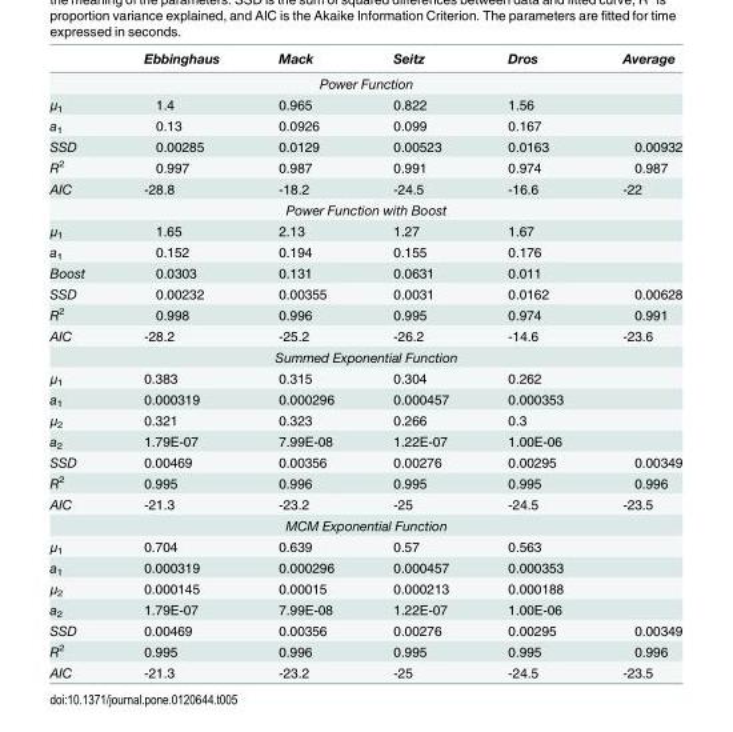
<table><thead><tr><td></td><td>Ebbinghaus</td><td>Mack</td><td>Seitz</td><td>Dros</td><td>Average</td></tr></thead><tbody><tr><td colspan="6">Power Function</td></tr><tr><td>μ<sub>1</sub></td><td>1.4</td><td>0.965</td><td>0.822</td><td>1.56</td><td></td></tr><tr><td>a<sub>1</sub></td><td>0.13</td><td>0.0926</td><td>0.099</td><td>0.167</td><td></td></tr><tr><td>SSD</td><td>0.00285</td><td>0.0129</td><td>0.00523</td><td>0.0163</td><td>0.00932</td></tr><tr><td>R<sup>2</sup></td><td>0.997</td><td>0.987</td><td>0.991</td><td>0.974</td><td>0.987</td></tr><tr><td>AIC</td><td>-28.8</td><td>-18.2</td><td>-24.5</td><td>-16.6</td><td>-22</td></tr><tr><td colspan="6">Power Function with Boost</td></tr><tr><td>μ<sub>1</sub></td><td>1.65</td><td>2.13</td><td>1.27</td><td>1.67</td><td></td></tr><tr><td>a<sub>1</sub></td><td>0.152</td><td>0.194</td><td>0.155</td><td>0.176</td><td></td></tr><tr><td>Boost</td><td>0.0303</td><td>0.131</td><td>0.0631</td><td>0.011</td><td></td></tr><tr><td>SSD</td><td>0.00232</td><td>0.00355</td><td>0.0031</td><td>0.0162</td><td>0.00628</td></tr><tr><td>R<sup>2</sup></td><td>0.998</td><td>0.996</td><td>0.995</td><td>0.974</td><td>0.991</td></tr><tr><td>AIC</td><td>-28.2</td><td>-25.2</td><td>-26.2</td><td>-14.6</td><td>-23.6</td></tr><tr><td colspan="6">Summed Exponential Function</td></tr><tr><td>μ<sub>1</sub></td><td>0.383</td><td>0.315</td><td>0.304</td><td>0.262</td><td></td></tr><tr><td>a<sub>1</sub></td><td>0.000319</td><td>0.000296</td><td>0.000457</td><td>0.000353</td><td></td></tr><tr><td>μ<sub>2</sub></td><td>0.321</td><td>0.323</td><td>0.266</td><td>0.3</td><td></td></tr><tr><td>a<sub>2</sub></td><td>1.79E-07</td><td>7.99E-08</td><td>1.22E-07</td><td>1.00E-06</td><td></td></tr><tr><td>SSD</td><td>0.00469</td><td>0.00356</td><td>0.00276</td><td>0.00295</td><td>0.00349</td></tr><tr><td>R<sup>2</sup></td><td>0.995</td><td>0.996</td><td>0.995</td><td>0.995</td><td>0.996</td></tr><tr><td>AIC</td><td>-21.3</td><td>-23.2</td><td>-25</td><td>-24.5</td><td>-23.5</td></tr><tr><td colspan="6">MCM Exponential Function</td></tr><tr><td>μ<sub>1</sub></td><td>0.704</td><td>0.639</td><td>0.57</td><td>0.563</td><td></td></tr><tr><td>a<sub>1</sub></td><td>0.000319</td><td>0.000296</td><td>0.000457</td><td>0.000353</td><td></td></tr><tr><td>μ<sub>2</sub></td><td>0.000145</td><td>0.00015</td><td>0.000213</td><td>0.000188</td><td></td></tr><tr><td>a<sub>2</sub></td><td>1.79E-07</td><td>7.99E-08</td><td>1.22E-07</td><td>1.00E-06</td><td></td></tr><tr><td>SSD</td><td>0.00469</td><td>0.00356</td><td>0.00276</td><td>0.00295</td><td>0.00349</td></tr><tr><td>R<sup>2</sup></td><td>0.995</td><td>0.996</td><td>0.995</td><td>0.995</td><td>0.996</td></tr><tr><td>AIC</td><td>-21.3</td><td>-23.2</td><td>-25</td><td>-24.5</td><td>-23.5</td></tr></tbody></table>